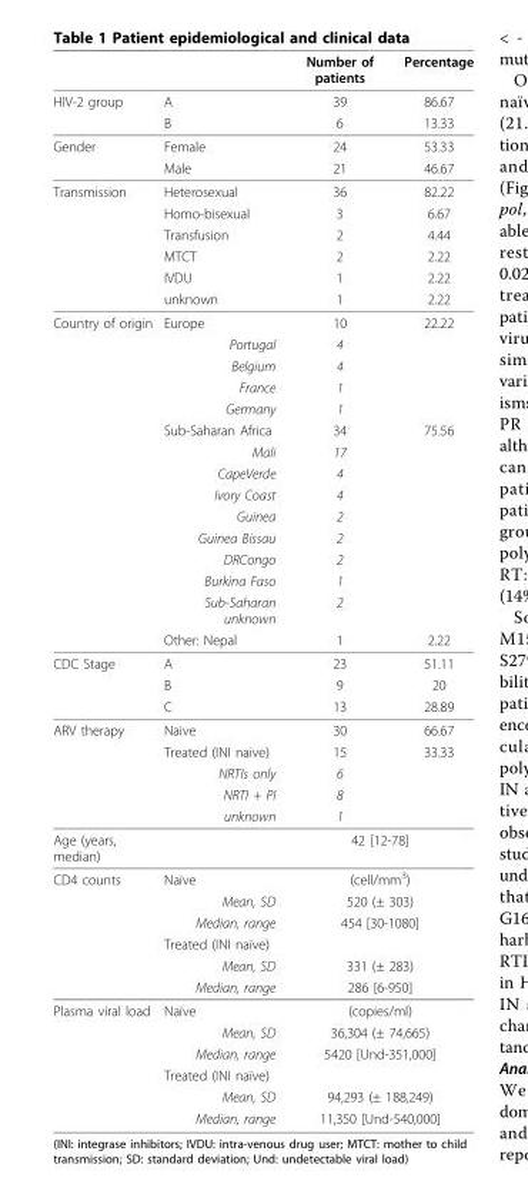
<table><thead><tr><td></td><td></td><td>Number of patients</td><td>Percentage</td></tr></thead><tbody><tr><td rowspan="2">HIV-2 group</td><td>A</td><td>39</td><td>86.67</td></tr><tr><td>B</td><td>6</td><td>13.33</td></tr><tr><td rowspan="2">Gender</td><td>Female</td><td>24</td><td>53.33</td></tr><tr><td>Male</td><td>21</td><td>46.67</td></tr><tr><td rowspan="6">Transmission</td><td>Heterosexual</td><td>36</td><td>82.22</td></tr><tr><td>Homo-bisexual</td><td>3</td><td>6.67</td></tr><tr><td>Transfusion</td><td>2</td><td>4.44</td></tr><tr><td>MTCT</td><td>2</td><td>2.22</td></tr><tr><td>IVDU</td><td>1</td><td>2.22</td></tr><tr><td>unknown</td><td>1</td><td>2.22</td></tr><tr><td rowspan="15">Country of origin</td><td>Europe</td><td>10</td><td>22.22</td></tr><tr><td>Portugal</td><td>4</td><td></td></tr><tr><td>Belgium</td><td>4</td><td></td></tr><tr><td>France</td><td>1</td><td></td></tr><tr><td>Germany</td><td>1</td><td></td></tr><tr><td>Sub-Saharan Africa</td><td>34</td><td>75.56</td></tr><tr><td>Mali</td><td>17</td><td></td></tr><tr><td>CapeVerde</td><td>4</td><td></td></tr><tr><td>Ivory Coast</td><td>4</td><td></td></tr><tr><td>Guinea</td><td>2</td><td></td></tr><tr><td>Guinea Bissau</td><td>2</td><td></td></tr><tr><td>DRCongo</td><td>2</td><td></td></tr><tr><td>Burkina Faso</td><td>1</td><td></td></tr><tr><td>Sub-Saharan unknown</td><td>2</td><td></td></tr><tr><td>Other: Nepal</td><td>1</td><td>2.22</td></tr><tr><td rowspan="3">CDC Stage</td><td>A</td><td>23</td><td>51.11</td></tr><tr><td>B</td><td>9</td><td>20</td></tr><tr><td>C</td><td>13</td><td>28.89</td></tr><tr><td rowspan="5">ARV therapy</td><td>Naive</td><td>30</td><td>66.67</td></tr><tr><td>Treated (INI naive)</td><td>15</td><td>33.33</td></tr><tr><td>NRTIs only</td><td>6</td><td></td></tr><tr><td>NRTI + PI</td><td>8</td><td></td></tr><tr><td>unknown</td><td>1</td><td></td></tr><tr><td>Age (years, median)</td><td></td><td colspan="2">42 [12-78]</td></tr><tr><td rowspan="6">CD4 counts</td><td>Naïve</td><td colspan="2">(cell/mm<sup>3</sup>)</td></tr><tr><td>Mean, SD</td><td colspan="2">520 (± 303)</td></tr><tr><td>Median, range</td><td colspan="2">454 [30-1080]</td></tr><tr><td>Treated (INI naïve)</td><td></td><td></td></tr><tr><td>Mean, SD</td><td colspan="2">331 (± 283)</td></tr><tr><td>Median, range</td><td colspan="2">286 [6-950]</td></tr><tr><td rowspan="6">Plasma viral load</td><td>Naïve</td><td colspan="2">(copies/ml)</td></tr><tr><td>Mean, SD</td><td colspan="2">36,304 (± 74,665)</td></tr><tr><td>Median, range</td><td colspan="2">5420 [Und-351,000]</td></tr><tr><td>Treated (INI naïve)</td><td></td><td></td></tr><tr><td>Mean, SD</td><td colspan="2">94,293 (± 188,249)</td></tr><tr><td>Median, range</td><td colspan="2">11,350 [Und-540,000]</td></tr></tbody></table>